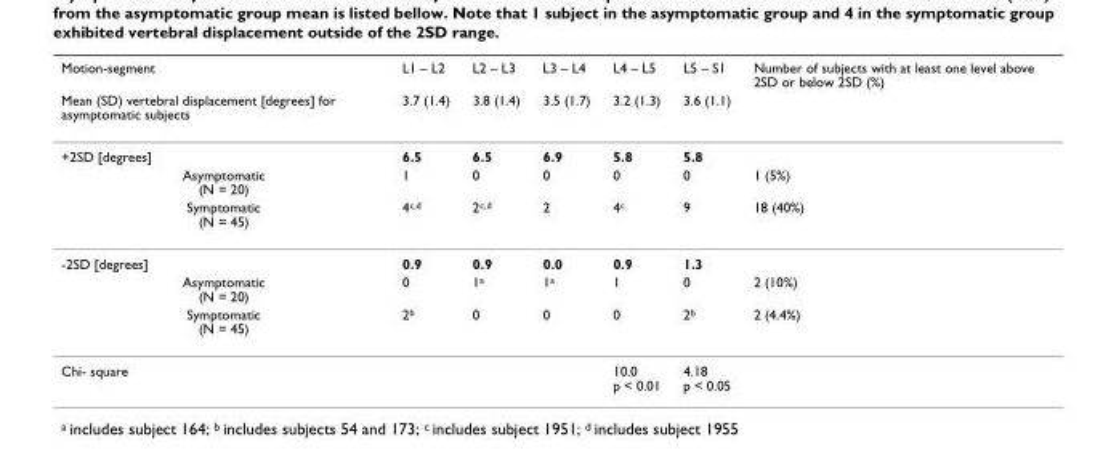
<table><thead><tr><td rowspan="2">Motion-segment Mean (SD) vertebral displacement [degrees] for asymptomatic subjects</td><td rowspan="2">L1 – L2 3.7 (1.4)</td><td rowspan="2">L2 – L3 3.8 (1.4)</td><td rowspan="2">L3 – L4 3.5 (1.7)</td><td rowspan="2">L4 – L5 3.2 (1.3)</td><td rowspan="2">L5 – S1 3.6 (1.1)</td><td rowspan="2">Number of subjects with at least one level above 2SD or below 2SD (%)</td></tr><tr></tr></thead><tbody><tr><td>+2SD [degrees]</td><td>6.5</td><td>6.5</td><td>6.9</td><td>5.8</td><td>5.8</td><td></td></tr><tr><td>Asymptomatic (N = 20)</td><td>1</td><td>0</td><td>0</td><td>0</td><td>0</td><td>1 (5%)</td></tr><tr><td>Symptomatic (N = 45)</td><td>4c,d</td><td>2c,d</td><td>2</td><td>4c</td><td>9</td><td>18 (40%)</td></tr><tr><td>-2SD [degrees]</td><td>0.9</td><td>0.9</td><td>0.0</td><td>0.9</td><td>1.3</td><td></td></tr><tr><td>Asymptomatic (N = 20)</td><td>0</td><td>1a</td><td>1a</td><td>1</td><td>0</td><td>2 (10%)</td></tr><tr><td>Symptomatic (N = 45)</td><td>2b</td><td>0</td><td>0</td><td>0</td><td>2b</td><td>2 (4.4%)</td></tr><tr><td>Chi- square</td><td></td><td></td><td></td><td>10.0 p &lt; 0.01</td><td>4.18 p &lt; 0.05</td><td></td></tr></tbody></table>